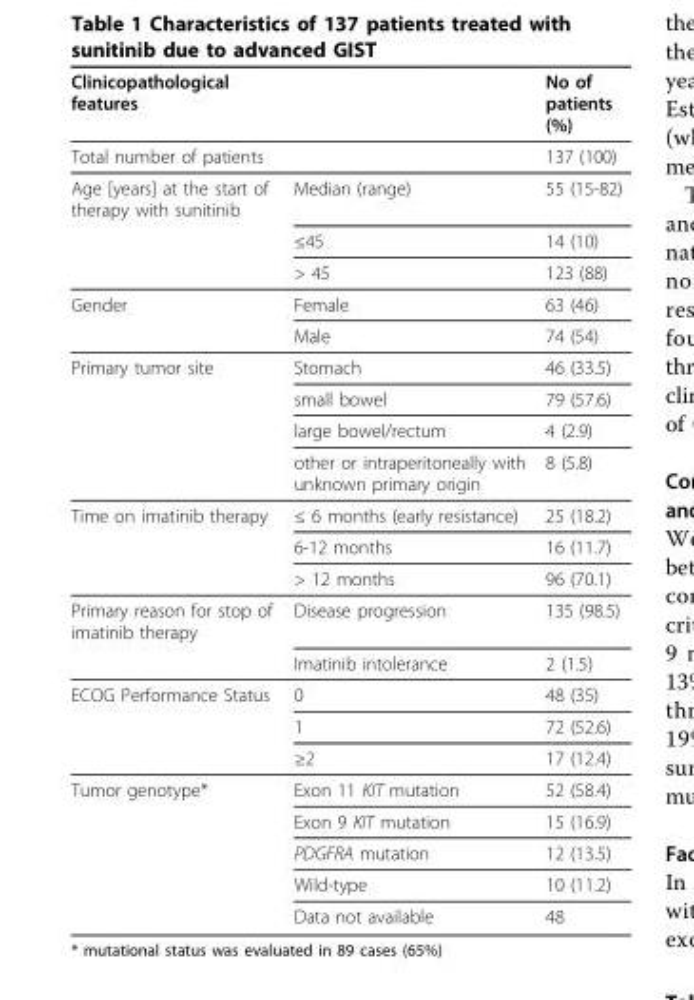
<table><thead><tr><td>Clinicopathological features</td><td></td><td>No of patients (%)</td></tr></thead><tbody><tr><td>Total number of patients</td><td></td><td>137 (100)</td></tr><tr><td rowspan="3">Age [years] at the start of therapy with sunitinib</td><td>Median (range)</td><td>55 (15-82)</td></tr><tr><td>≤45</td><td>14 (10)</td></tr><tr><td>&gt; 45</td><td>123 (88)</td></tr><tr><td rowspan="2">Gender</td><td>Female</td><td>63 (46)</td></tr><tr><td>Male</td><td>74 (54)</td></tr><tr><td rowspan="4">Primary tumor site</td><td>Stomach</td><td>46 (33.5)</td></tr><tr><td>small bowel</td><td>79 (57.6)</td></tr><tr><td>large bowel/rectum</td><td>4 (2.9)</td></tr><tr><td>other or intraperitoneally with unknown primary origin</td><td>8 (5.8)</td></tr><tr><td rowspan="3">Time on imatinib therapy</td><td>≤ 6 months (early resistance)</td><td>25 (18.2)</td></tr><tr><td>6-12 months</td><td>16 (11.7)</td></tr><tr><td>&gt; 12 months</td><td>96 (70.1)</td></tr><tr><td rowspan="2">Primary reason for stop of imatinib therapy</td><td>Disease progression</td><td>135 (98.5)</td></tr><tr><td>Imatinib intolerance</td><td>2 (1.5)</td></tr><tr><td rowspan="3">ECOG Performance Status</td><td>0</td><td>48 (35)</td></tr><tr><td>1</td><td>72 (52.6)</td></tr><tr><td>≥2</td><td>17 (12.4)</td></tr><tr><td rowspan="5">Tumor genotype*</td><td>Exon 11 KIT mutation</td><td>52 (58.4)</td></tr><tr><td>Exon 9 KIT mutation</td><td>15 (16.9)</td></tr><tr><td>PDGFRA mutation</td><td>12 (13.5)</td></tr><tr><td>Wild-type</td><td>10 (11.2)</td></tr><tr><td>Data not available</td><td>48</td></tr></tbody></table>